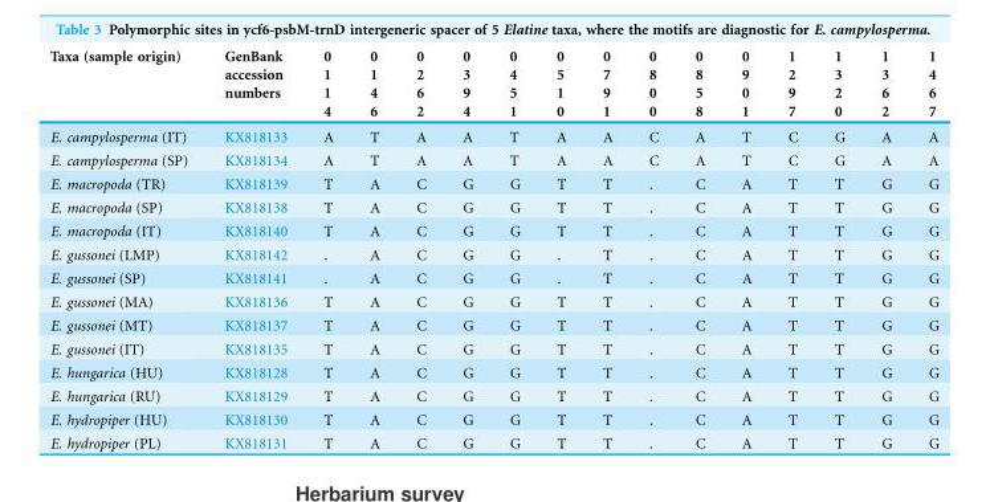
<table><thead><tr><td rowspan="4">Taxa (sample origin)</td><td rowspan="4">GenBank accession numbers</td><td rowspan="4">0 1 1 4</td><td rowspan="4">0 1 4 6</td><td rowspan="4">0 2 6 2</td><td rowspan="4">0 3 9 4</td><td rowspan="4">0 4 5 1</td><td rowspan="4">0 5 1 0</td><td rowspan="4">0 7 9 1</td><td rowspan="4">0 8 0 0</td><td rowspan="4">0 8 5 8</td><td rowspan="4">0 9 0 1</td><td rowspan="4">1 2 9 7</td><td rowspan="4">1 3 2 0</td><td rowspan="4">1 3 6 2</td><td rowspan="4">1 4 6 7</td></tr><tr></tr><tr></tr><tr></tr></thead><tbody><tr><td>E. campylosperma (IT)</td><td>KX818133</td><td>A</td><td>T</td><td>A</td><td>A</td><td>T</td><td>A</td><td>A</td><td>C</td><td>A</td><td>T</td><td>C</td><td>G</td><td>A</td><td>A</td></tr><tr><td>E. campylosperma (SP)</td><td>KX818134</td><td>A</td><td>T</td><td>A</td><td>A</td><td>T</td><td>A</td><td>A</td><td>C</td><td>A</td><td>T</td><td>C</td><td>G</td><td>A</td><td>A</td></tr><tr><td>E. macropoda (TR)</td><td>KX818139</td><td>T</td><td>A</td><td>C</td><td>G</td><td>G</td><td>T</td><td>T</td><td>.</td><td>C</td><td>A</td><td>T</td><td>T</td><td>G</td><td>G</td></tr><tr><td>E. macropoda (SP)</td><td>KX818138</td><td>T</td><td>A</td><td>C</td><td>G</td><td>G</td><td>T</td><td>T</td><td>.</td><td>C</td><td>A</td><td>T</td><td>T</td><td>G</td><td>G</td></tr><tr><td>E. macropoda (IT)</td><td>KX818140</td><td>T</td><td>A</td><td>C</td><td>G</td><td>G</td><td>T</td><td>T</td><td>.</td><td>C</td><td>A</td><td>T</td><td>T</td><td>G</td><td>G</td></tr><tr><td>E. gussonei (LMP)</td><td>KX818142</td><td>.</td><td>A</td><td>C</td><td>G</td><td>G</td><td>.</td><td>T</td><td>.</td><td>C</td><td>A</td><td>T</td><td>T</td><td>G</td><td>G</td></tr><tr><td>E. gussonei (SP)</td><td>KX818141</td><td>.</td><td>A</td><td>C</td><td>G</td><td>G</td><td>.</td><td>T</td><td>.</td><td>C</td><td>A</td><td>T</td><td>T</td><td>G</td><td>G</td></tr><tr><td>E. gussonei (MA)</td><td>KX818136</td><td>T</td><td>A</td><td>C</td><td>G</td><td>G</td><td>T</td><td>T</td><td>.</td><td>C</td><td>A</td><td>T</td><td>T</td><td>G</td><td>G</td></tr><tr><td>E. gussonei (MT)</td><td>KX818137</td><td>T</td><td>A</td><td>C</td><td>G</td><td>G</td><td>T</td><td>T</td><td>.</td><td>C</td><td>A</td><td>T</td><td>T</td><td>G</td><td>G</td></tr><tr><td>E. gussonei (IT)</td><td>KX818135</td><td>T</td><td>A</td><td>C</td><td>G</td><td>G</td><td>T</td><td>T</td><td>.</td><td>C</td><td>A</td><td>T</td><td>T</td><td>G</td><td>G</td></tr><tr><td>E. hungarica (HU)</td><td>KX818128</td><td>T</td><td>A</td><td>C</td><td>G</td><td>G</td><td>T</td><td>T</td><td>.</td><td>C</td><td>A</td><td>T</td><td>T</td><td>G</td><td>G</td></tr><tr><td>E. hungarica (RU)</td><td>KX818129</td><td>T</td><td>A</td><td>C</td><td>G</td><td>G</td><td>T</td><td>T</td><td>.</td><td>C</td><td>A</td><td>T</td><td>T</td><td>G</td><td>G</td></tr><tr><td>E. hydropiper (HU)</td><td>KX818130</td><td>T</td><td>A</td><td>C</td><td>G</td><td>G</td><td>T</td><td>T</td><td>.</td><td>C</td><td>A</td><td>T</td><td>T</td><td>G</td><td>G</td></tr><tr><td>E. hydropiper (PL)</td><td>KX818131</td><td>T</td><td>A</td><td>C</td><td>G</td><td>G</td><td>T</td><td>T</td><td>.</td><td>C</td><td>A</td><td>T</td><td>T</td><td>G</td><td>G</td></tr></tbody></table>